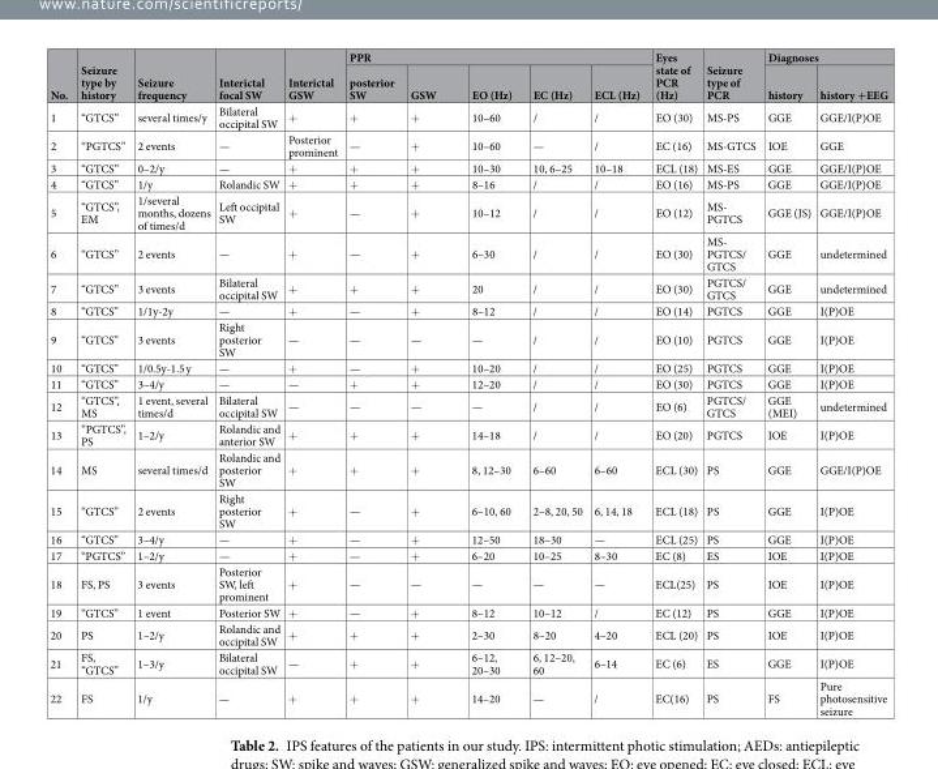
<table><thead><tr><td rowspan="2">No.</td><td rowspan="2">Seizure type by history</td><td rowspan="2">Seizure frequency</td><td rowspan="2">Interictal focal SW</td><td rowspan="2">Interictal GSW</td><td colspan="5">PPR</td><td rowspan="2">Eyes state of PCR (Hz)</td><td rowspan="2">Seizure type of PCR</td><td colspan="2">Diagnoses</td></tr><tr><td>posterior SW</td><td>GSW</td><td>EO (Hz)</td><td>EC (Hz)</td><td>ECL (Hz)</td><td>history</td><td>history +EEG</td></tr></thead><tbody><tr><td>1</td><td>“GTCS”</td><td>several times/y</td><td>Bilateral occipital SW</td><td>+</td><td>+</td><td>+</td><td>10–60</td><td>/</td><td>/</td><td>EO (30)</td><td>MS-PS</td><td>GGE</td><td>GGE/I(P)OE</td></tr><tr><td>2</td><td>“PGTCS”</td><td>2 events</td><td>—</td><td>Posterior prominent</td><td>—</td><td>+</td><td>10–60</td><td>—</td><td>/</td><td>EC (16)</td><td>MS-GTCS</td><td>IOE</td><td>GGE</td></tr><tr><td>3</td><td>“GTCS”</td><td>0–2/y</td><td>—</td><td>+</td><td>+</td><td>+</td><td>10–30</td><td>10, 6–25</td><td>10–18</td><td>ECL (18)</td><td>MS-ES</td><td>GGE</td><td>GGE/I(P)OE</td></tr><tr><td>4</td><td>“GTCS”</td><td>1/y</td><td>Rolandic SW</td><td>+</td><td>+</td><td>+</td><td>8–16</td><td>/</td><td>/</td><td>EO (16)</td><td>MS-PS</td><td>GGE</td><td>GGE/I(P)OE</td></tr><tr><td>5</td><td>“GTCS”, EM</td><td>1/several months, dozens of times/d</td><td>Left occipital SW</td><td>+</td><td>—</td><td>+</td><td>10–12</td><td>/</td><td>/</td><td>EO (12)</td><td>MS- PGTCS</td><td>GGE (JS)</td><td>GGE/I(P)OE</td></tr><tr><td>6</td><td>“GTCS”</td><td>2 events</td><td>—</td><td>+</td><td>—</td><td>+</td><td>6–30</td><td>/</td><td>/</td><td>EO (30)</td><td>MS- PGTCS/ GTCS</td><td>GGE</td><td>undetermined</td></tr><tr><td>7</td><td>“GTCS”</td><td>3 events</td><td>Bilateral occipital SW</td><td>+</td><td>+</td><td>+</td><td>20</td><td>/</td><td>/</td><td>EO (30)</td><td>PGTCS/ GTCS</td><td>GGE</td><td>undetermined</td></tr><tr><td>8</td><td>“GTCS”</td><td>1/1y-2y</td><td>—</td><td>+</td><td>—</td><td>+</td><td>8–12</td><td>/</td><td>/</td><td>EO (14)</td><td>PGTCS</td><td>GGE</td><td>I(P)OE</td></tr><tr><td>9</td><td>“GTCS”</td><td>3 events</td><td>Right posterior SW</td><td>—</td><td>—</td><td>—</td><td>—</td><td>/</td><td>/</td><td>EO (10)</td><td>PGTCS</td><td>GGE</td><td>I(P)OE</td></tr><tr><td>10</td><td>“GTCS”</td><td>1/0.5y-1.5 y</td><td>—</td><td>+</td><td>—</td><td>+</td><td>10–20</td><td>/</td><td>/</td><td>EO (25)</td><td>PGTCS</td><td>GGE</td><td>I(P)OE</td></tr><tr><td>11</td><td>“GTCS”</td><td>3–4/y</td><td>—</td><td>—</td><td>+</td><td>+</td><td>12–20</td><td>/</td><td>/</td><td>EO (30)</td><td>PGTCS</td><td>GGE</td><td>I(P)OE</td></tr><tr><td>12</td><td>“GTCS”, MS</td><td>1 event, several times/d</td><td>Bilateral occipital SW</td><td>—</td><td>—</td><td>—</td><td>—</td><td>/</td><td>/</td><td>EO (6)</td><td>PGTCS/ GTCS</td><td>GGE (MEI)</td><td>undetermined</td></tr><tr><td>13</td><td>“PGTCS”, PS</td><td>1–2/y</td><td>Rolandic and anterior SW</td><td>+</td><td>+</td><td>+</td><td>14–18</td><td>/</td><td>/</td><td>EO (20)</td><td>PGTCS</td><td>IOE</td><td>I(P)OE</td></tr><tr><td>14</td><td>MS</td><td>several times/d</td><td>Rolandic and posterior SW</td><td>+</td><td>+</td><td>+</td><td>8, 12–30</td><td>6–60</td><td>6–60</td><td>ECL (30)</td><td>PS</td><td>GGE</td><td>GGE/I(P)OE</td></tr><tr><td>15</td><td>“GTCS”</td><td>2 events</td><td>Right posterior SW</td><td>+</td><td>—</td><td>+</td><td>6–10, 60</td><td>2–8, 20, 50</td><td>6, 14, 18</td><td>ECL (18)</td><td>PS</td><td>GGE</td><td>I(P)OE</td></tr><tr><td>16</td><td>“GTCS”</td><td>3–4/y</td><td>—</td><td>+</td><td>—</td><td>+</td><td>12–50</td><td>18–30</td><td>—</td><td>ECL (25)</td><td>PS</td><td>GGE</td><td>I(P)OE</td></tr><tr><td>17</td><td>“PGTCS”</td><td>1–2/y</td><td>—</td><td>+</td><td>—</td><td>+</td><td>6–20</td><td>10–25</td><td>8–30</td><td>EC (8)</td><td>ES</td><td>IOE</td><td>I(P)OE</td></tr><tr><td>18</td><td>FS, PS</td><td>3 events</td><td>Posterior SW, left prominent</td><td>+</td><td>—</td><td>—</td><td>—</td><td>—</td><td>—</td><td>ECL(25)</td><td>PS</td><td>IOE</td><td>I(P)OE</td></tr><tr><td>19</td><td>“GTCS”</td><td>1 event</td><td>Posterior SW</td><td>+</td><td>—</td><td>+</td><td>8–12</td><td>10–12</td><td>/</td><td>EC (12)</td><td>PS</td><td>GGE</td><td>I(P)OE</td></tr><tr><td>20</td><td>PS</td><td>1–2/y</td><td>Rolandic and occipital SW</td><td>+</td><td>+</td><td>+</td><td>2–30</td><td>8–20</td><td>4–20</td><td>ECL (20)</td><td>PS</td><td>IOE</td><td>I(P)OE</td></tr><tr><td>21</td><td>FS, “GTCS”</td><td>1–3/y</td><td>Bilateral occipital SW</td><td>—</td><td>+</td><td>+</td><td>6–12, 20–30</td><td>6, 12–20, 60</td><td>6–14</td><td>EC (6)</td><td>ES</td><td>GGE</td><td>I(P)OE</td></tr><tr><td>22</td><td>FS</td><td>1/y</td><td>—</td><td>+</td><td>+</td><td>+</td><td>14–20</td><td>—</td><td>/</td><td>EC(16)</td><td>PS</td><td>FS</td><td>Pure photosensitive seizure</td></tr></tbody></table>